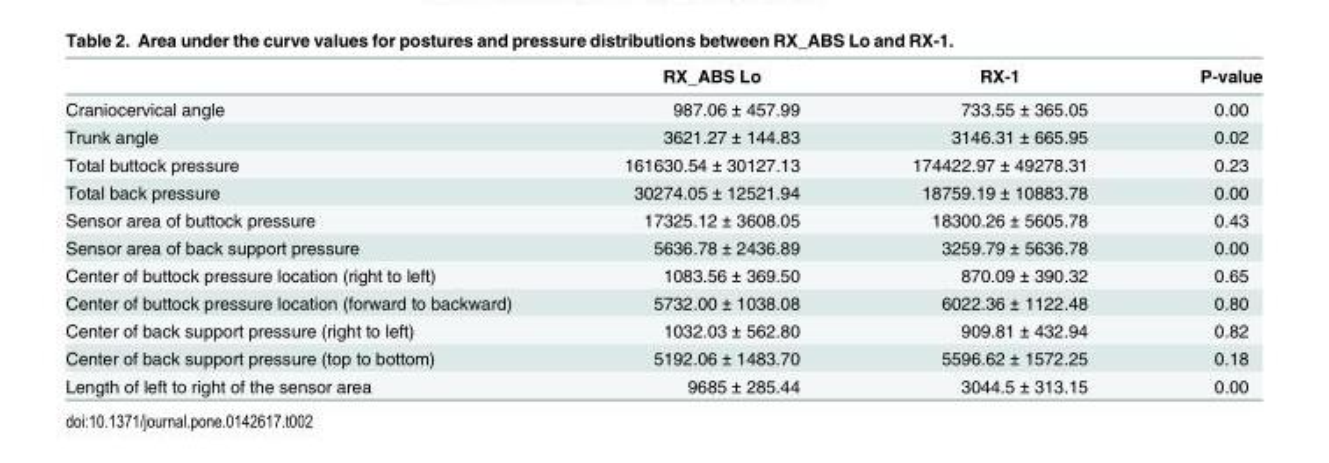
<table><thead><tr><td></td><td>RX_ABS Lo</td><td>RX-1</td><td>P-value</td></tr></thead><tbody><tr><td>Craniocervical angle</td><td>987.06 ± 457.99</td><td>733.55 ± 365.05</td><td>0.00</td></tr><tr><td>Trunk angle</td><td>3621.27 ± 144.83</td><td>3146.31 ± 665.95</td><td>0.02</td></tr><tr><td>Total buttock pressure</td><td>161630.54 ± 30127.13</td><td>174422.97 ± 49278.31</td><td>0.23</td></tr><tr><td>Total back pressure</td><td>30274.05 ± 12521.94</td><td>18759.19 ± 10883.78</td><td>0.00</td></tr><tr><td>Sensor area of buttock pressure</td><td>17325.12 ± 3608.05</td><td>18300.26 ± 5605.78</td><td>0.43</td></tr><tr><td>Sensor area of back support pressure</td><td>5636.78 ± 2436.89</td><td>3259.79 ± 5636.78</td><td>0.00</td></tr><tr><td>Center of buttock pressure location (right to left)</td><td>1083.56 ± 369.50</td><td>870.09 ± 390.32</td><td>0.65</td></tr><tr><td>Center of buttock pressure location (forward to backward)</td><td>5732.00 ± 1038.08</td><td>6022.36 ± 1122.48</td><td>0.80</td></tr><tr><td>Center of back support pressure (right to left)</td><td>1032.03 ± 562.80</td><td>909.81 ± 432.94</td><td>0.82</td></tr><tr><td>Center of back support pressure (top to bottom)</td><td>5192.06 ± 1483.70</td><td>5596.62 ± 1572.25</td><td>0.18</td></tr><tr><td>Length of left to right of the sensor area</td><td>9685 ± 285.44</td><td>3044.5 ± 313.15</td><td>0.00</td></tr></tbody></table>